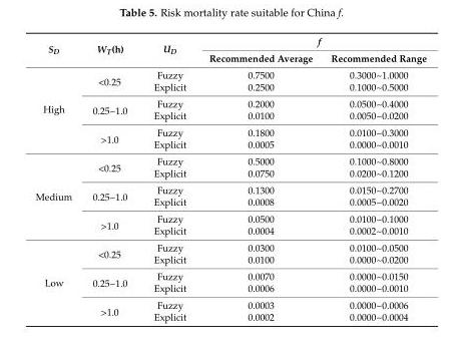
<table><thead><tr><td rowspan="2">S<sub>D</sub></td><td rowspan="2">W<sub>T</sub>(h)</td><td rowspan="2">U<sub>D</sub></td><td colspan="2">f</td></tr><tr><td>Recommended Average</td><td>Recommended Range</td></tr></thead><tbody><tr><td rowspan="6">High</td><td rowspan="2">&lt;0.25</td><td>Fuzzy</td><td>0.7500</td><td>0.3000~1.0000</td></tr><tr><td>Explicit</td><td>0.2500</td><td>0.1000~0.5000</td></tr><tr><td rowspan="2">0.25~1.0</td><td>Fuzzy</td><td>0.2000</td><td>0.0500~0.4000</td></tr><tr><td>Explicit</td><td>0.0100</td><td>0.0050~0.0200</td></tr><tr><td rowspan="2">&gt;1.0</td><td>Fuzzy</td><td>0.1800</td><td>0.0100~0.3000</td></tr><tr><td>Explicit</td><td>0.0005</td><td>0.0000~0.0010</td></tr><tr><td rowspan="6">Medium</td><td rowspan="2">&lt;0.25</td><td>Fuzzy</td><td>0.5000</td><td>0.1000~0.8000</td></tr><tr><td>Explicit</td><td>0.0750</td><td>0.0200~0.1200</td></tr><tr><td rowspan="2">0.25~1.0</td><td>Fuzzy</td><td>0.1300</td><td>0.0150~0.2700</td></tr><tr><td>Explicit</td><td>0.0008</td><td>0.0005~0.0020</td></tr><tr><td rowspan="2">&gt;1.0</td><td>Fuzzy</td><td>0.0500</td><td>0.0100~0.1000</td></tr><tr><td>Explicit</td><td>0.0004</td><td>0.0002~0.0010</td></tr><tr><td rowspan="6">Low</td><td rowspan="2">&lt;0.25</td><td>Fuzzy</td><td>0.0300</td><td>0.0100~0.0500</td></tr><tr><td>Explicit</td><td>0.0100</td><td>0.0000~0.0200</td></tr><tr><td rowspan="2">0.25~1.0</td><td>Fuzzy</td><td>0.0070</td><td>0.0000~0.0150</td></tr><tr><td>Explicit</td><td>0.0006</td><td>0.0000~0.0010</td></tr><tr><td rowspan="2">&gt;1.0</td><td>Fuzzy</td><td>0.0003</td><td>0.0000~0.0006</td></tr><tr><td>Explicit</td><td>0.0002</td><td>0.0000~0.0004</td></tr></tbody></table>